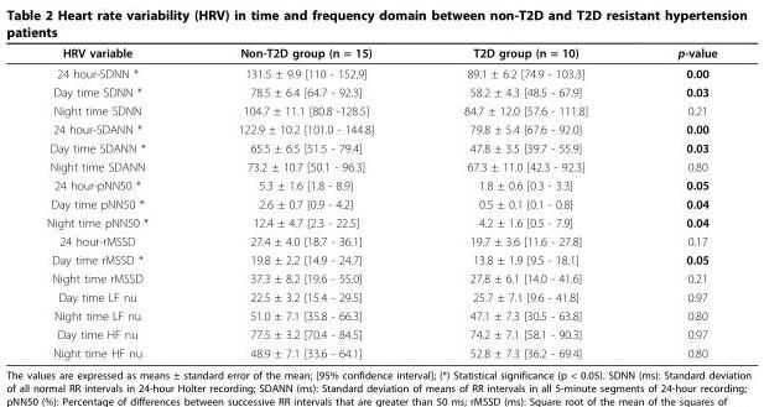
<table><thead><tr><td>HRV variable</td><td>Non-T2D group (n = 15)</td><td>T2D group (n = 10)</td><td>p-value</td></tr></thead><tbody><tr><td>24 hour-SDNN *</td><td>131.5 ± 9.9 [110 - 152,9]</td><td>89.1 ± 6.2 [74.9 - 103.3]</td><td>0.00</td></tr><tr><td>Day time SDNN *</td><td>78.5 ± 6.4 [64.7 - 92.3]</td><td>58.2 ± 4.3 [48.5 - 67.9]</td><td>0.03</td></tr><tr><td>Night time SDNN</td><td>104.7 ± 11.1 [80.8 -128.5]</td><td>84.7 ± 12.0 [57.6 - 111.8]</td><td>0.21</td></tr><tr><td>24 hour-SDANN *</td><td>122.9 ± 10.2 [101.0 - 144.8]</td><td>79.8 ± 5.4 [67.6 - 92.0]</td><td>0.00</td></tr><tr><td>Day time SDANN *</td><td>65.5 ± 6.5 [51.5 - 79.4]</td><td>47.8 ± 3.5 [39.7 - 55.9]</td><td>0.03</td></tr><tr><td>Night time SDANN</td><td>73.2 ± 10.7 [50.1 - 96.3]</td><td>67.3 ± 11.0 [42.3 - 92.3]</td><td>0.80</td></tr><tr><td>24 hour-pNN50 *</td><td>5.3 ± 1.6 [1.8 - 8.9]</td><td>1.8 ± 0.6 [0.3 - 3.3]</td><td>0.05</td></tr><tr><td>Day time pNN50 *</td><td>2.6 ± 0.7 [0.9 - 4.2]</td><td>0.5 ± 0.1 [0.1 - 0.8]</td><td>0.04</td></tr><tr><td>Night time pNN50 *</td><td>12.4 ± 4.7 [2.3 - 22.5]</td><td>4.2 ± 1.6 [0.5 - 7.9]</td><td>0.04</td></tr><tr><td>24 hour-rMSSD</td><td>27.4 ± 4.0 [18.7 - 36.1]</td><td>19.7 ± 3.6 [11.6 - 27.8]</td><td>0.17</td></tr><tr><td>Day time rMSSD *</td><td>19.8 ± 2.2 [14.9 - 24.7]</td><td>13.8 ± 1.9 [9.5 - 18.1]</td><td>0.05</td></tr><tr><td>Night time rMSSD</td><td>37.3 ± 8.2 [19.6 - 55.0]</td><td>27.8 ± 6.1 [14.0 - 41.6]</td><td>0.21</td></tr><tr><td>Day time LF nu</td><td>22.5 ± 3.2 [15.4 - 29.5]</td><td>25.7 ± 7.1 [9.6 - 41.8]</td><td>0.97</td></tr><tr><td>Night time LF nu</td><td>51.0 ± 7.1 [35.8 - 66.3]</td><td>47.1 ± 7.3 [30.5 - 63.8]</td><td>0.80</td></tr><tr><td>Day time HF nu</td><td>77.5 ± 3.2 [70.4 - 84.5]</td><td>74.2 ± 7.1 [58.1 - 90.3]</td><td>0.97</td></tr><tr><td>Night time HF nu</td><td>48.9 ± 7.1 [33.6 - 64.1]</td><td>52.8 ± 7.3 [36.2 - 69.4]</td><td>0.80</td></tr></tbody></table>